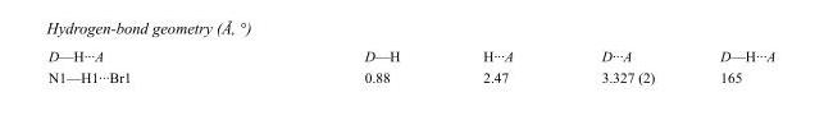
<table><tbody><tr><td>D—H···A</td><td>D—H</td><td>H···A</td><td>D···A</td><td>D—H···A</td></tr><tr><td>N1—H1···Br1</td><td>0.88</td><td>2.47</td><td>3.327 (2)</td><td>165</td></tr></tbody></table>